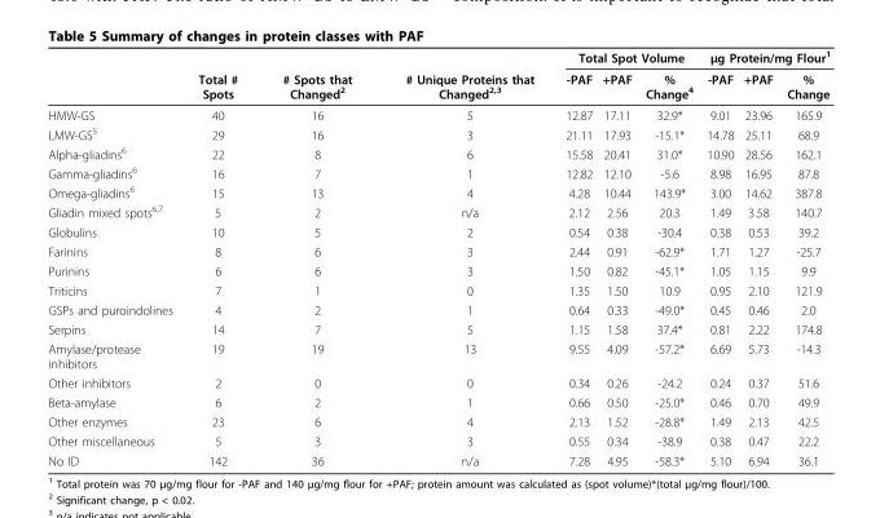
<table><thead><tr><td rowspan="2"></td><td rowspan="2">Total # Spots</td><td rowspan="2"># Spots that Changed<sup>2</sup></td><td rowspan="2"># Unique Proteins that Changed<sup>2,3</sup></td><td colspan="3">Total Spot Volume</td><td colspan="3">μg Protein/mg Flour<sup>1</sup></td></tr><tr><td>-PAF</td><td>+PAF</td><td>% Change<sup>4</sup></td><td>-PAF</td><td>+PAF</td><td>% Change</td></tr></thead><tbody><tr><td>HMW-GS</td><td>40</td><td>16</td><td>5</td><td>12.87</td><td>17.11</td><td>32.9*</td><td>9.01</td><td>23.96</td><td>165.9</td></tr><tr><td>LMW-GS<sup>5</sup></td><td>29</td><td>16</td><td>3</td><td>21.11</td><td>17.93</td><td>-15.1*</td><td>14.78</td><td>25.11</td><td>68.9</td></tr><tr><td>Alpha-gliadins<sup>6</sup></td><td>22</td><td>8</td><td>6</td><td>15.58</td><td>20.41</td><td>31.0*</td><td>10.90</td><td>28.56</td><td>162.1</td></tr><tr><td>Gamma-gliadins<sup>6</sup></td><td>16</td><td>7</td><td>1</td><td>12.82</td><td>12.10</td><td>-5.6</td><td>8.98</td><td>16.95</td><td>87.8</td></tr><tr><td>Omega-gliadins<sup>6</sup></td><td>15</td><td>13</td><td>4</td><td>4.28</td><td>10.44</td><td>143.9*</td><td>3.00</td><td>14.62</td><td>387.8</td></tr><tr><td>Gliadin mixed spots<sup>6,7</sup></td><td>5</td><td>2</td><td>n/a</td><td>2.12</td><td>2.56</td><td>20.3</td><td>1.49</td><td>3.58</td><td>140.7</td></tr><tr><td>Globulins</td><td>10</td><td>5</td><td>2</td><td>0.54</td><td>0.38</td><td>-30.4</td><td>0.38</td><td>0.53</td><td>39.2</td></tr><tr><td>Farinins</td><td>8</td><td>6</td><td>3</td><td>2.44</td><td>0.91</td><td>-62.9*</td><td>1.71</td><td>1.27</td><td>-25.7</td></tr><tr><td>Purinins</td><td>6</td><td>6</td><td>3</td><td>1.50</td><td>0.82</td><td>-45.1*</td><td>1.05</td><td>1.15</td><td>9.9</td></tr><tr><td>Triticins</td><td>7</td><td>1</td><td>0</td><td>1.35</td><td>1.50</td><td>10.9</td><td>0.95</td><td>2.10</td><td>121.9</td></tr><tr><td>GSPs and puroindolines</td><td>4</td><td>2</td><td>1</td><td>0.64</td><td>0.33</td><td>-49.0*</td><td>0.45</td><td>0.46</td><td>2.0</td></tr><tr><td>Serpins</td><td>14</td><td>7</td><td>5</td><td>1.15</td><td>1.58</td><td>37.4*</td><td>0.81</td><td>2.22</td><td>174.8</td></tr><tr><td>Amylase/protease inhibitors</td><td>19</td><td>19</td><td>13</td><td>9.55</td><td>4.09</td><td>-57.2*</td><td>6.69</td><td>5.73</td><td>-14.3</td></tr><tr><td>Other inhibitors</td><td>2</td><td>0</td><td>0</td><td>0.34</td><td>0.26</td><td>-24.2</td><td>0.24</td><td>0.37</td><td>51.6</td></tr><tr><td>Beta-amylase</td><td>6</td><td>2</td><td>1</td><td>0.66</td><td>0.50</td><td>-25.0*</td><td>0.46</td><td>0.70</td><td>49.9</td></tr><tr><td>Other enzymes</td><td>23</td><td>6</td><td>4</td><td>2.13</td><td>1.52</td><td>-28.8*</td><td>1.49</td><td>2.13</td><td>42.5</td></tr><tr><td>Other miscellaneous</td><td>5</td><td>3</td><td>3</td><td>0.55</td><td>0.34</td><td>-38.9</td><td>0.38</td><td>0.47</td><td>22.2</td></tr><tr><td>No ID</td><td>142</td><td>36</td><td>n/a</td><td>7.28</td><td>4.95</td><td>-58.3*</td><td>5.10</td><td>6.94</td><td>36.1</td></tr></tbody></table>